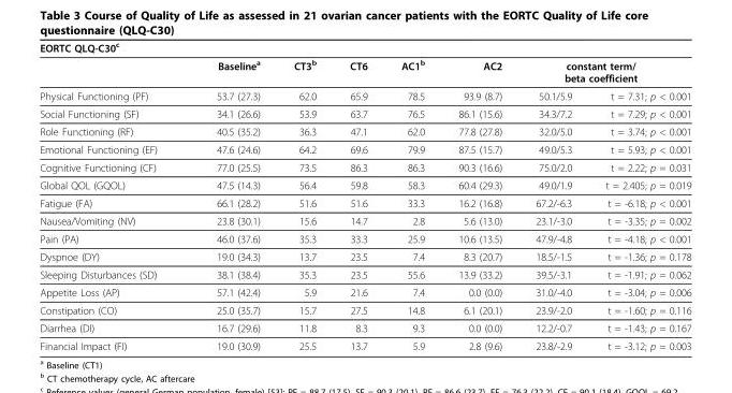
<table><thead><tr><td colspan="8">EORTC QLQ-C30c</td></tr><tr><td rowspan="2">Physical Functioning (PF)</td><td rowspan="2">Baselinea 53.7 (27.3)</td><td rowspan="2">CT3b 62.0</td><td rowspan="2">CT6 65.9</td><td rowspan="2">AC1b 78.5</td><td rowspan="2">AC2 93.9 (8.7)</td><td colspan="2">constant term/ beta coefficient</td></tr><tr><td>50.1/5.9</td><td>t = 7.31; p &lt; 0.001</td></tr></thead><tbody><tr><td>Social Functioning (SF)</td><td>34.1 (26.6)</td><td>53.9</td><td>63.7</td><td>76.5</td><td>86.1 (15.6)</td><td>34.3/7.2</td><td>t = 7.29; p &lt; 0.001</td></tr><tr><td>Role Functioning (RF)</td><td>40.5 (35.2)</td><td>36.3</td><td>47.1</td><td>62.0</td><td>77.8 (27.8)</td><td>32.0/5.0</td><td>t = 3.74; p &lt; 0.001</td></tr><tr><td>Emotional Functioning (EF)</td><td>47.6 (24.6)</td><td>64.2</td><td>69.6</td><td>79.9</td><td>87.5 (15.7)</td><td>49.0/5.3</td><td>t = 5.93; p &lt; 0.001</td></tr><tr><td>Cognitive Functioning (CF)</td><td>77.0 (25.5)</td><td>73.5</td><td>86.3</td><td>86.3</td><td>90.3 (16.6)</td><td>75.0/2.0</td><td>t = 2.22; p = 0.031</td></tr><tr><td>Global QOL (GQOL)</td><td>47.5 (14.3)</td><td>56.4</td><td>59.8</td><td>58.3</td><td>60.4 (29.3)</td><td>49.0/1.9</td><td>t = 2.405; p = 0.019</td></tr><tr><td>Fatigue (FA)</td><td>66.1 (28.2)</td><td>51.6</td><td>51.6</td><td>33.3</td><td>16.2 (16.8)</td><td>67.2/-6.3</td><td>t = -6.18; p &lt; 0.001</td></tr><tr><td>Nausea/Vomiting (NV)</td><td>23.8 (30.1)</td><td>15.6</td><td>14.7</td><td>2.8</td><td>5.6 (13.0)</td><td>23.1/-3.0</td><td>t = -3.35; p = 0.002</td></tr><tr><td>Pain (PA)</td><td>46.0 (37.6)</td><td>35.3</td><td>33.3</td><td>25.9</td><td>10.6 (13.5)</td><td>47.9/-4.8</td><td>t = -4.18; p &lt; 0.001</td></tr><tr><td>Dyspnoe (DY)</td><td>19.0 (34.3)</td><td>13.7</td><td>23.5</td><td>7.4</td><td>8.3 (20.7)</td><td>18.5/-1.5</td><td>t = -1.36; p = 0.178</td></tr><tr><td>Sleeping Disturbances (SD)</td><td>38.1 (38.4)</td><td>35.3</td><td>23.5</td><td>55.6</td><td>13.9 (33.2)</td><td>39.5/-3.1</td><td>t = -1.91; p = 0.062</td></tr><tr><td>Appetite Loss (AP)</td><td>57.1 (42.4)</td><td>5.9</td><td>21.6</td><td>7.4</td><td>0.0 (0.0)</td><td>31.0/-4.0</td><td>t = -3.04; p = 0.006</td></tr><tr><td>Constipation (CO)</td><td>25.0 (35.7)</td><td>15.7</td><td>27.5</td><td>14.8</td><td>6.1 (20.1)</td><td>23.9/-2.0</td><td>t = -1.60; p = 0.116</td></tr><tr><td>Diarrhea (DI)</td><td>16.7 (29.6)</td><td>11.8</td><td>8.3</td><td>9.3</td><td>0.0 (0.0)</td><td>12.2/-0.7</td><td>t = -1.43; p = 0.167</td></tr><tr><td>Financial Impact (FI)</td><td>19.0 (30.9)</td><td>25.5</td><td>13.7</td><td>5.9</td><td>2.8 (9.6)</td><td>23.8/-2.9</td><td>t = -3.12; p = 0.003</td></tr></tbody></table>